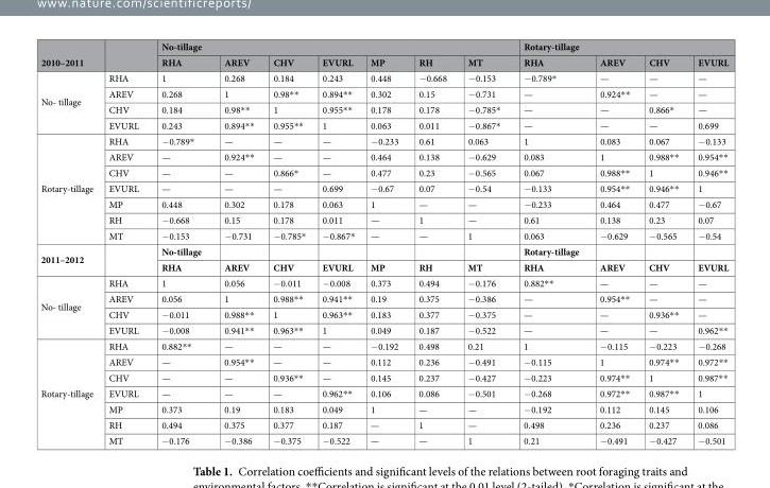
<table><thead><tr><td rowspan="2">2010–2011</td><td rowspan="2"></td><td colspan="7">No-tillage</td><td colspan="4">Rotary-tillage</td></tr><tr><td>RHA</td><td>AREV</td><td>CHV</td><td>EVURL</td><td>MP</td><td>RH</td><td>MT</td><td>RHA</td><td>AREV</td><td>CHV</td><td>EVURL</td></tr></thead><tbody><tr><td rowspan="4">No- tillage</td><td>RHA</td><td>1</td><td>0.268</td><td>0.184</td><td>0.243</td><td>0.448</td><td>−0.668</td><td>−0.153</td><td>−0.789*</td><td>—</td><td>—</td><td>—</td></tr><tr><td>AREV</td><td>0.268</td><td>1</td><td>0.98**</td><td>0.894**</td><td>0.302</td><td>0.15</td><td>−0.731</td><td>—</td><td>0.924**</td><td>—</td><td>—</td></tr><tr><td>CHV</td><td>0.184</td><td>0.98**</td><td>1</td><td>0.955**</td><td>0.178</td><td>0.178</td><td>−0.785*</td><td>—</td><td>—</td><td>0.866*</td><td>—</td></tr><tr><td>EVURL</td><td>0.243</td><td>0.894**</td><td>0.955**</td><td>1</td><td>0.063</td><td>0.011</td><td>−0.867*</td><td>—</td><td>—</td><td>—</td><td>0.699</td></tr><tr><td rowspan="7">Rotary-tillage</td><td>RHA</td><td>−0.789*</td><td>—</td><td>—</td><td>—</td><td>−0.233</td><td>0.61</td><td>0.063</td><td>1</td><td>0.083</td><td>0.067</td><td>−0.133</td></tr><tr><td>AREV</td><td>—</td><td>0.924**</td><td>—</td><td>—</td><td>0.464</td><td>0.138</td><td>−0.629</td><td>0.083</td><td>1</td><td>0.988**</td><td>0.954**</td></tr><tr><td>CHV</td><td>—</td><td>—</td><td>0.866*</td><td>—</td><td>0.477</td><td>0.23</td><td>−0.565</td><td>0.067</td><td>0.988**</td><td>1</td><td>0.946**</td></tr><tr><td>EVURL</td><td>—</td><td>—</td><td>—</td><td>0.699</td><td>−0.67</td><td>0.07</td><td>−0.54</td><td>−0.133</td><td>0.954**</td><td>0.946**</td><td>1</td></tr><tr><td>MP</td><td>0.448</td><td>0.302</td><td>0.178</td><td>0.063</td><td>1</td><td>—</td><td>—</td><td>−0.233</td><td>0.464</td><td>0.477</td><td>−0.67</td></tr><tr><td>RH</td><td>−0.668</td><td>0.15</td><td>0.178</td><td>0.011</td><td>—</td><td>1</td><td>—</td><td>0.61</td><td>0.138</td><td>0.23</td><td>0.07</td></tr><tr><td>MT</td><td>−0.153</td><td>−0.731</td><td>−0.785*</td><td>−0.867*</td><td>—</td><td>—</td><td>1</td><td>0.063</td><td>−0.629</td><td>−0.565</td><td>−0.54</td></tr><tr><td rowspan="2">2011–2012</td><td rowspan="2"></td><td>No-tillage</td><td></td><td></td><td></td><td></td><td></td><td></td><td>Rotary-tillage</td><td></td><td></td><td></td></tr><tr><td>RHA</td><td>AREV</td><td>CHV</td><td>EVURL</td><td>MP</td><td>RH</td><td>MT</td><td>RHA</td><td>AREV</td><td>CHV</td><td>EVURL</td></tr><tr><td rowspan="4">No- tillage</td><td>RHA</td><td>1</td><td>0.056</td><td>−0.011</td><td>−0.008</td><td>0.373</td><td>0.494</td><td>−0.176</td><td>0.882**</td><td>—</td><td>—</td><td>—</td></tr><tr><td>AREV</td><td>0.056</td><td>1</td><td>0.988**</td><td>0.941**</td><td>0.19</td><td>0.375</td><td>−0.386</td><td>—</td><td>0.954**</td><td>—</td><td>—</td></tr><tr><td>CHV</td><td>−0.011</td><td>0.988**</td><td>1</td><td>0.963**</td><td>0.183</td><td>0.377</td><td>−0.375</td><td>—</td><td>—</td><td>0.936**</td><td>—</td></tr><tr><td>EVURL</td><td>−0.008</td><td>0.941**</td><td>0.963**</td><td>1</td><td>0.049</td><td>0.187</td><td>−0.522</td><td>—</td><td>—</td><td>—</td><td>0.962**</td></tr><tr><td rowspan="7">Rotary-tillage</td><td>RHA</td><td>0.882**</td><td>—</td><td>—</td><td>—</td><td>−0.192</td><td>0.498</td><td>0.21</td><td>1</td><td>−0.115</td><td>−0.223</td><td>−0.268</td></tr><tr><td>AREV</td><td>—</td><td>0.954**</td><td>—</td><td>—</td><td>0.112</td><td>0.236</td><td>−0.491</td><td>−0.115</td><td>1</td><td>0.974**</td><td>0.972**</td></tr><tr><td>CHV</td><td>—</td><td>—</td><td>0.936**</td><td>—</td><td>0.145</td><td>0.237</td><td>−0.427</td><td>−0.223</td><td>0.974**</td><td>1</td><td>0.987**</td></tr><tr><td>EVURL</td><td>—</td><td>—</td><td>—</td><td>0.962**</td><td>0.106</td><td>0.086</td><td>−0.501</td><td>−0.268</td><td>0.972**</td><td>0.987**</td><td>1</td></tr><tr><td>MP</td><td>0.373</td><td>0.19</td><td>0.183</td><td>0.049</td><td>1</td><td>—</td><td>—</td><td>−0.192</td><td>0.112</td><td>0.145</td><td>0.106</td></tr><tr><td>RH</td><td>0.494</td><td>0.375</td><td>0.377</td><td>0.187</td><td>—</td><td>1</td><td>—</td><td>0.498</td><td>0.236</td><td>0.237</td><td>0.086</td></tr><tr><td>MT</td><td>−0.176</td><td>−0.386</td><td>−0.375</td><td>−0.522</td><td>—</td><td>—</td><td>1</td><td>0.21</td><td>−0.491</td><td>−0.427</td><td>−0.501</td></tr></tbody></table>